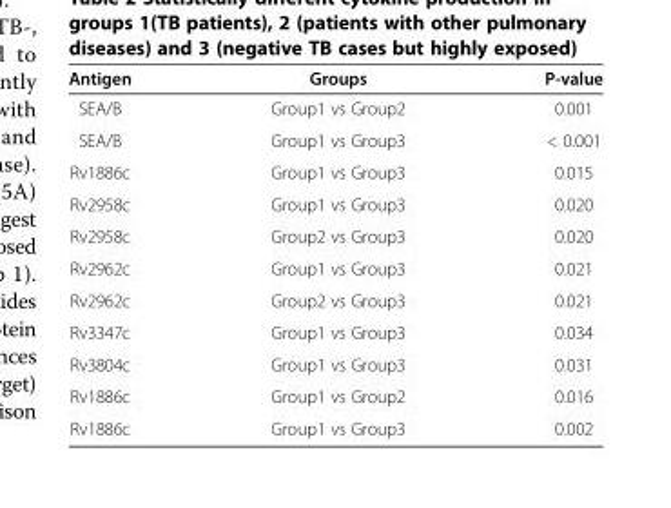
<table><thead><tr><td>Antigen</td><td>Groups</td><td>P-value</td></tr></thead><tbody><tr><td>SEA/B</td><td>Group1 vs Group2</td><td>0.001</td></tr><tr><td>SEA/B</td><td>Group1 vs Group3</td><td>&lt; 0.001</td></tr><tr><td>Rv1886c</td><td>Group1 vs Group3</td><td>0.015</td></tr><tr><td>Rv2958c</td><td>Group1 vs Group3</td><td>0.020</td></tr><tr><td>Rv2958c</td><td>Group2 vs Group3</td><td>0.020</td></tr><tr><td>Rv2962c</td><td>Group1 vs Group3</td><td>0.021</td></tr><tr><td>Rv2962c</td><td>Group2 vs Group3</td><td>0.021</td></tr><tr><td>Rv3347c</td><td>Group1 vs Group3</td><td>0.034</td></tr><tr><td>Rv3804c</td><td>Group1 vs Group3</td><td>0.031</td></tr><tr><td>Rv1886c</td><td>Group1 vs Group2</td><td>0.016</td></tr><tr><td>Rv1886c</td><td>Group1 vs Group3</td><td>0.002</td></tr></tbody></table>